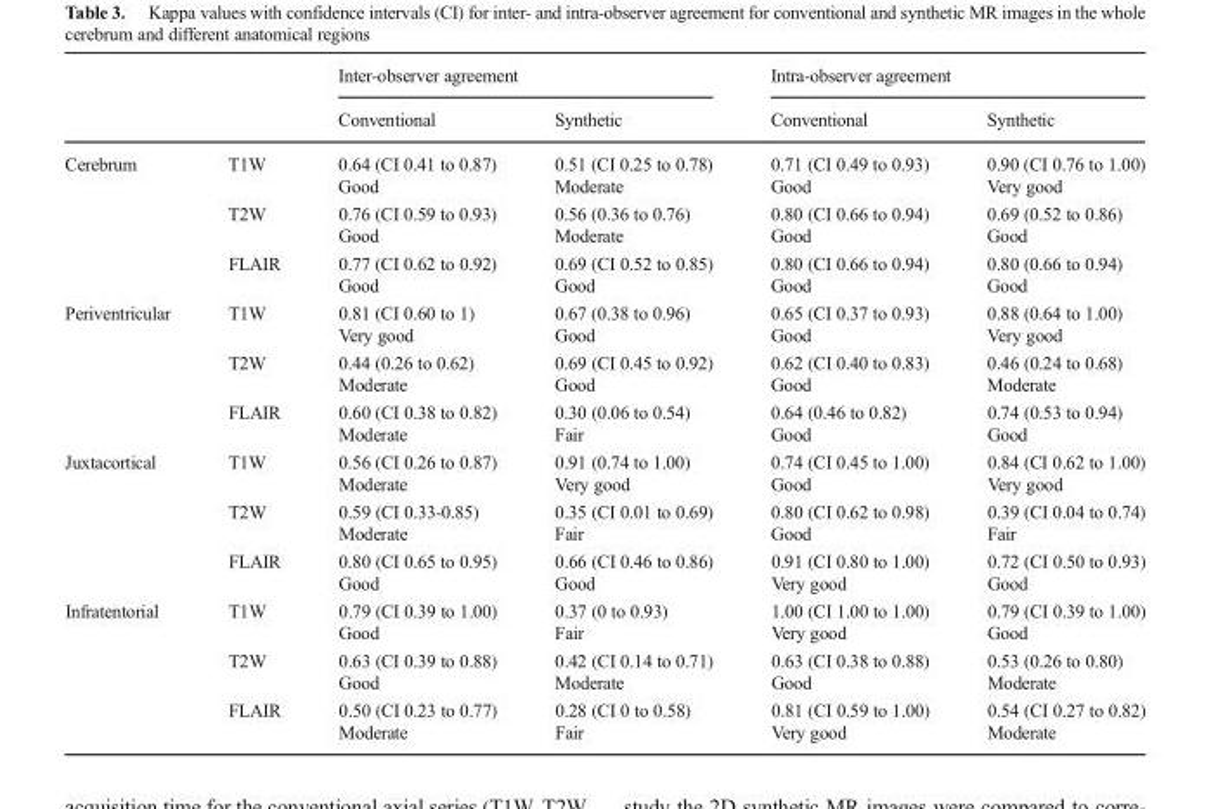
<table><thead><tr><td rowspan="2"></td><td rowspan="2"></td><td colspan="2">Inter-observer agreement</td><td colspan="2">Intra-observer agreement</td></tr><tr><td>Conventional</td><td>Synthetic</td><td>Conventional</td><td>Synthetic</td></tr></thead><tbody><tr><td rowspan="3">Cerebrum</td><td>T1W</td><td>0.64 (CI 0.41 to 0.87) Good</td><td>0.51 (CI 0.25 to 0.78) Moderate</td><td>0.71 (CI 0.49 to 0.93) Good</td><td>0.90 (CI 0.76 to 1.00) Very good</td></tr><tr><td>T2W</td><td>0.76 (CI 0.59 to 0.93) Good</td><td>0.56 (0.36 to 0.76) Moderate</td><td>0.80 (CI 0.66 to 0.94) Good</td><td>0.69 (0.52 to 0.86) Good</td></tr><tr><td>FLAIR</td><td>0.77 (CI 0.62 to 0.92) Good</td><td>0.69 (CI 0.52 to 0.85) Good</td><td>0.80 (CI 0.66 to 0.94) Good</td><td>0.80 (0.66 to 0.94) Good</td></tr><tr><td rowspan="3">Periventricular</td><td>T1W</td><td>0.81 (CI 0.60 to 1) Very good</td><td>0.67 (0.38 to 0.96) Good</td><td>0.65 (CI 0.37 to 0.93) Good</td><td>0.88 (0.64 to 1.00) Very good</td></tr><tr><td>T2W</td><td>0.44 (0.26 to 0.62) Moderate</td><td>0.69 (CI 0.45 to 0.92) Good</td><td>0.62 (CI 0.40 to 0.83) Good</td><td>0.46 (0.24 to 0.68) Moderate</td></tr><tr><td>FLAIR</td><td>0.60 (CI 0.38 to 0.82) Moderate</td><td>0.30 (0.06 to 0.54) Fair</td><td>0.64 (0.46 to 0.82) Good</td><td>0.74 (0.53 to 0.94) Good</td></tr><tr><td rowspan="3">Juxtacortical</td><td>T1W</td><td>0.56 (CI 0.26 to 0.87) Moderate</td><td>0.91 (0.74 to 1.00) Very good</td><td>0.74 (CI 0.45 to 1.00) Good</td><td>0.84 (CI 0.62 to 1.00) Very good</td></tr><tr><td>T2W</td><td>0.59 (CI 0.33-0.85) Moderate</td><td>0.35 (CI 0.01 to 0.69) Fair</td><td>0.80 (CI 0.62 to 0.98) Good</td><td>0.39 (CI 0.04 to 0.74) Fair</td></tr><tr><td>FLAIR</td><td>0.80 (CI 0.65 to 0.95) Good</td><td>0.66 (CI 0.46 to 0.86) Good</td><td>0.91 (CI 0.80 to 1.00) Very good</td><td>0.72 (CI 0.50 to 0.93) Good</td></tr><tr><td rowspan="3">Infratentorial</td><td>T1W</td><td>0.79 (CI 0.39 to 1.00) Good</td><td>0.37 (0 to 0.93) Fair</td><td>1.00 (CI 1.00 to 1.00) Very good</td><td>0.79 (CI 0.39 to 1.00) Good</td></tr><tr><td>T2W</td><td>0.63 (CI 0.39 to 0.88) Good</td><td>0.42 (CI 0.14 to 0.71) Moderate</td><td>0.63 (CI 0.38 to 0.88) Good</td><td>0.53 (0.26 to 0.80) Moderate</td></tr><tr><td>FLAIR</td><td>0.50 (CI 0.23 to 0.77) Moderate</td><td>0.28 (CI 0 to 0.58) Fair</td><td>0.81 (CI 0.59 to 1.00) Very good</td><td>0.54 (CI 0.27 to 0.82) Moderate</td></tr></tbody></table>